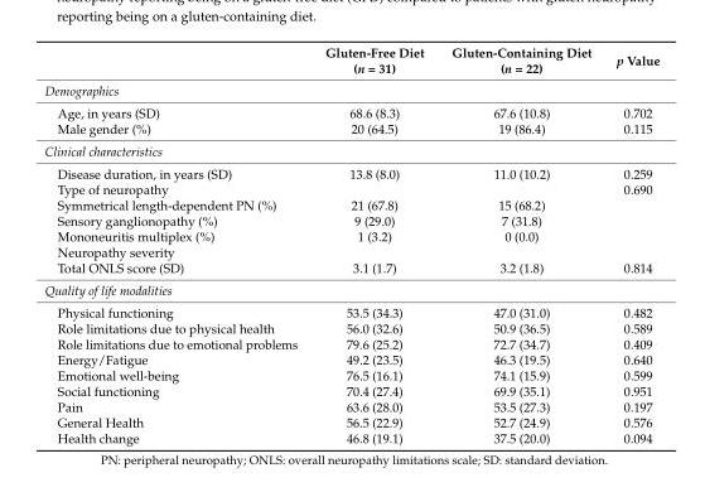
<table><thead><tr><td></td><td>Gluten-Free Diet (n = 31)</td><td>Gluten-Containing Diet (n = 22)</td><td>p Value</td></tr></thead><tbody><tr><td colspan="4">Demographics</td></tr><tr><td>Age, in years (SD)</td><td>68.6 (8.3)</td><td>67.6 (10.8)</td><td>0.702</td></tr><tr><td>Male gender (%)</td><td>20 (64.5)</td><td>19 (86.4)</td><td>0.115</td></tr><tr><td colspan="4">Clinical characteristics</td></tr><tr><td>Disease duration, in years (SD)</td><td>13.8 (8.0)</td><td>11.0 (10.2)</td><td>0.259</td></tr><tr><td>Type of neuropathy</td><td></td><td></td><td>0.690</td></tr><tr><td>Symmetrical length-dependent PN (%)</td><td>21 (67.8)</td><td>15 (68.2)</td><td></td></tr><tr><td>Sensory ganglionopathy (%)</td><td>9 (29.0)</td><td>7 (31.8)</td><td></td></tr><tr><td>Mononeuritis multiplex (%)</td><td>1 (3.2)</td><td>0 (0.0)</td><td></td></tr><tr><td colspan="4">Neuropathy severity</td></tr><tr><td>Total ONLS score (SD)</td><td>3.1 (1.7)</td><td>3.2 (1.8)</td><td>0.814</td></tr><tr><td colspan="4">Quality of life modalities</td></tr><tr><td>Physical functioning</td><td>53.5 (34.3)</td><td>47.0 (31.0)</td><td>0.482</td></tr><tr><td>Role limitations due to physical health</td><td>56.0 (32.6)</td><td>50.9 (36.5)</td><td>0.589</td></tr><tr><td>Role limitations due to emotional problems</td><td>79.6 (25.2)</td><td>72.7 (34.7)</td><td>0.409</td></tr><tr><td>Energy/Fatigue</td><td>49.2 (23.5)</td><td>46.3 (19.5)</td><td>0.640</td></tr><tr><td>Emotional well-being</td><td>76.5 (16.1)</td><td>74.1 (15.9)</td><td>0.599</td></tr><tr><td>Social functioning</td><td>70.4 (27.4)</td><td>69.9 (35.1)</td><td>0.951</td></tr><tr><td>Pain</td><td>63.6 (28.0)</td><td>53.5 (27.3)</td><td>0.197</td></tr><tr><td>General Health</td><td>56.5 (22.9)</td><td>52.7 (24.9)</td><td>0.576</td></tr><tr><td>Health change</td><td>46.8 (19.1)</td><td>37.5 (20.0)</td><td>0.094</td></tr></tbody></table>